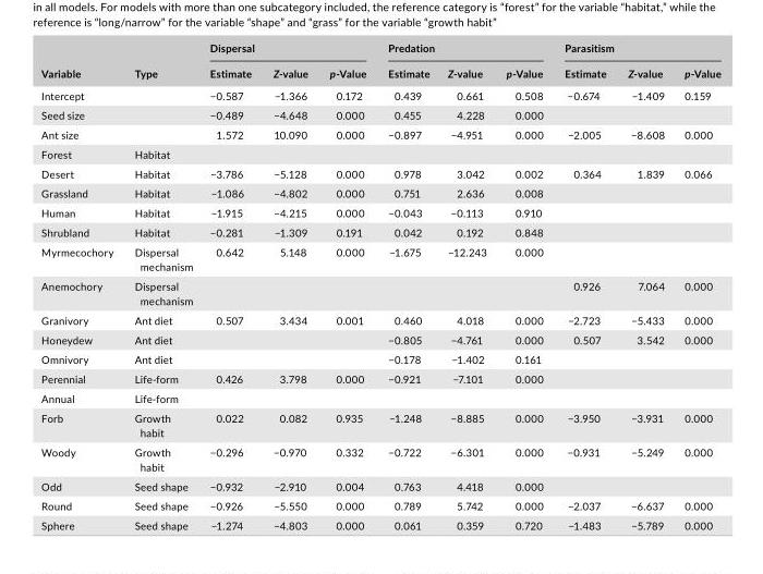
<table><thead><tr><td rowspan="2">Variable</td><td rowspan="2">Type</td><td colspan="3">Dispersal</td><td colspan="3">Predation</td><td colspan="3">Parasitism</td></tr><tr><td>Estimate</td><td>Z- value</td><td>p- Value</td><td>Estimate</td><td>Z- value</td><td>p- Value</td><td>Estimate</td><td>Z- value</td><td>p- Value</td></tr></thead><tbody><tr><td>Intercept</td><td></td><td>−0.587</td><td>−1.366</td><td>0.172</td><td>0.439</td><td>0.661</td><td>0.508</td><td>−0.674</td><td>−1.409</td><td>0.159</td></tr><tr><td>Seed size</td><td></td><td>−0.489</td><td>−4.648</td><td>0.000</td><td>0.455</td><td>4.228</td><td>0.000</td><td></td><td></td><td></td></tr><tr><td>Ant size</td><td></td><td>1.572</td><td>10.090</td><td>0.000</td><td>−0.897</td><td>−4.951</td><td>0.000</td><td>−2.005</td><td>−8.608</td><td>0.000</td></tr><tr><td>Forest</td><td>Habitat</td><td></td><td></td><td></td><td></td><td></td><td></td><td></td><td></td><td></td></tr><tr><td>Desert</td><td>Habitat</td><td>−3.786</td><td>−5.128</td><td>0.000</td><td>0.978</td><td>3.042</td><td>0.002</td><td>0.364</td><td>1.839</td><td>0.066</td></tr><tr><td>Grassland</td><td>Habitat</td><td>−1.086</td><td>−4.802</td><td>0.000</td><td>0.751</td><td>2.636</td><td>0.008</td><td></td><td></td><td></td></tr><tr><td>Human</td><td>Habitat</td><td>−1.915</td><td>−4.215</td><td>0.000</td><td>−0.043</td><td>−0.113</td><td>0.910</td><td></td><td></td><td></td></tr><tr><td>Shrubland</td><td>Habitat</td><td>−0.281</td><td>−1.309</td><td>0.191</td><td>0.042</td><td>0.192</td><td>0.848</td><td></td><td></td><td></td></tr><tr><td>Myrmecochory</td><td>Dispersal mechanism</td><td>0.642</td><td>5.148</td><td>0.000</td><td>−1.675</td><td>−12.243</td><td>0.000</td><td></td><td></td><td></td></tr><tr><td>Anemochory</td><td>Dispersal mechanism</td><td></td><td></td><td></td><td></td><td></td><td></td><td>0.926</td><td>7.064</td><td>0.000</td></tr><tr><td>Granivory</td><td>Ant diet</td><td>0.507</td><td>3.434</td><td>0.001</td><td>0.460</td><td>4.018</td><td>0.000</td><td>−2.723</td><td>−5.433</td><td>0.000</td></tr><tr><td>Honeydew</td><td>Ant diet</td><td></td><td></td><td></td><td>−0.805</td><td>−4.761</td><td>0.000</td><td>0.507</td><td>3.542</td><td>0.000</td></tr><tr><td>Omnivory</td><td>Ant diet</td><td></td><td></td><td></td><td>−0.178</td><td>−1.402</td><td>0.161</td><td></td><td></td><td></td></tr><tr><td>Perennial</td><td>Life- form</td><td>0.426</td><td>3.798</td><td>0.000</td><td>−0.921</td><td>−7.101</td><td>0.000</td><td></td><td></td><td></td></tr><tr><td>Annual</td><td>Life- form</td><td></td><td></td><td></td><td></td><td></td><td></td><td></td><td></td><td></td></tr><tr><td>Forb</td><td>Growth habit</td><td>0.022</td><td>0.082</td><td>0.935</td><td>−1.248</td><td>−8.885</td><td>0.000</td><td>−3.950</td><td>−3.931</td><td>0.000</td></tr><tr><td>Woody</td><td>Growth habit</td><td>−0.296</td><td>−0.970</td><td>0.332</td><td>−0.722</td><td>−6.301</td><td>0.000</td><td>−0.931</td><td>−5.249</td><td>0.000</td></tr><tr><td>Odd</td><td>Seed shape</td><td>−0.932</td><td>−2.910</td><td>0.004</td><td>0.763</td><td>4.418</td><td>0.000</td><td></td><td></td><td></td></tr><tr><td>Round</td><td>Seed shape</td><td>−0.926</td><td>−5.550</td><td>0.000</td><td>0.789</td><td>5.742</td><td>0.000</td><td>−2.037</td><td>−6.637</td><td>0.000</td></tr><tr><td>Sphere</td><td>Seed shape</td><td>−1.274</td><td>−4.803</td><td>0.000</td><td>0.061</td><td>0.359</td><td>0.720</td><td>−1.483</td><td>−5.789</td><td>0.000</td></tr></tbody></table>